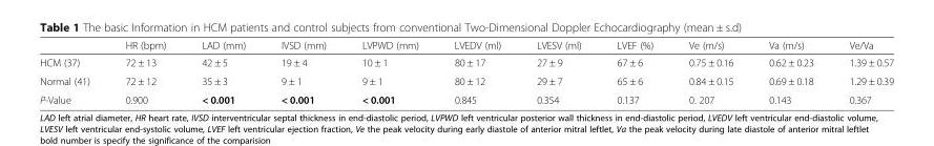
<table><thead><tr><td></td><td>HR (bpm)</td><td>LAD (mm)</td><td>IVSD (mm)</td><td>LVPWD (mm)</td><td>LVEDV (ml)</td><td>LVESV (ml)</td><td>LVEF (%)</td><td>Ve (m/s)</td><td>Va (m/s)</td><td>Ve/Va</td></tr></thead><tbody><tr><td>HCM (37)</td><td>72 ± 13</td><td>42 ± 5</td><td>19 ± 4</td><td>10 ± 1</td><td>80 ± 17</td><td>27 ± 9</td><td>67 ± 6</td><td>0.75 ± 0.16</td><td>0.62 ± 0.23</td><td>1.39 ± 0.57</td></tr><tr><td>Normal (41)</td><td>72 ± 12</td><td>35 ± 3</td><td>9 ± 1</td><td>9 ± 1</td><td>80 ± 12</td><td>29 ± 7</td><td>65 ± 6</td><td>0.84 ± 0.15</td><td>0.69 ± 0.18</td><td>1.29 ± 0.39</td></tr><tr><td>P-Value</td><td>0.900</td><td>&lt; 0.001</td><td>&lt; 0.001</td><td>&lt; 0.001</td><td>0.845</td><td>0.354</td><td>0.137</td><td>0. 207</td><td>0.143</td><td>0.367</td></tr></tbody></table>